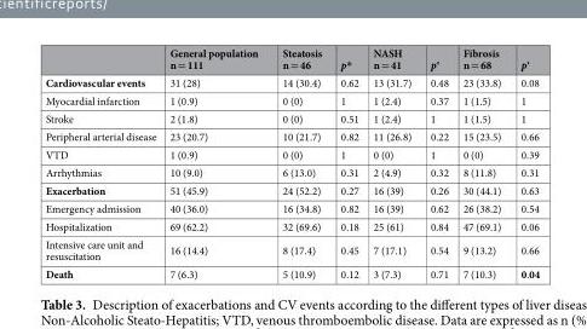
<table><thead><tr><td></td><td>General population n = 111</td><td>Steatosis n = 46</td><td>p*</td><td>NASH n = 41</td><td>p°</td><td>Fibrosis n = 68</td><td>p‘</td></tr></thead><tbody><tr><td>Cardiovascular events</td><td>31 (28)</td><td>14 (30.4)</td><td>0.62</td><td>13 (31.7)</td><td>0.48</td><td>23 (33.8)</td><td>0.08</td></tr><tr><td>Myocardial infarction</td><td>1 (0.9)</td><td>0 (0)</td><td>1</td><td>1 (2.4)</td><td>0.37</td><td>1 (1.5)</td><td>1</td></tr><tr><td>Stroke</td><td>2 (1.8)</td><td>0 (0)</td><td>0.51</td><td>1 (2.4)</td><td>1</td><td>1 (1.5)</td><td>1</td></tr><tr><td>Peripheral arterial disease</td><td>23 (20.7)</td><td>10 (21.7)</td><td>0.82</td><td>11 (26.8)</td><td>0.22</td><td>15 (23.5)</td><td>0.66</td></tr><tr><td>VTD</td><td>1 (0.9)</td><td>0 (0)</td><td>1</td><td>0 (0)</td><td>1</td><td>0 (0)</td><td>0.39</td></tr><tr><td>Arrhythmias</td><td>10 (9.0)</td><td>6 (13.0)</td><td>0.31</td><td>2 (4.9)</td><td>0.32</td><td>8 (11.8)</td><td>0.31</td></tr><tr><td>Exacerbation</td><td>51 (45.9)</td><td>24 (52.2)</td><td>0.27</td><td>16 (39)</td><td>0.26</td><td>30 (44.1)</td><td>0.63</td></tr><tr><td>Emergency admission</td><td>40 (36.0)</td><td>16 (34.8)</td><td>0.82</td><td>16 (39)</td><td>0.62</td><td>26 (38.2)</td><td>0.54</td></tr><tr><td>Hospitalization</td><td>69 (62.2)</td><td>32 (69.6)</td><td>0.18</td><td>25 (61)</td><td>0.84</td><td>47 (69.1)</td><td>0.06</td></tr><tr><td>Intensive care unit and resuscitation</td><td>16 (14.4)</td><td>8 (17.4)</td><td>0.45</td><td>7 (17.1)</td><td>0.54</td><td>9 (13.2)</td><td>0.66</td></tr><tr><td>Death</td><td>7 (6.3)</td><td>5 (10.9)</td><td>0.12</td><td>3 (7.3)</td><td>0.71</td><td>7 (10.3)</td><td>0.04</td></tr></tbody></table>